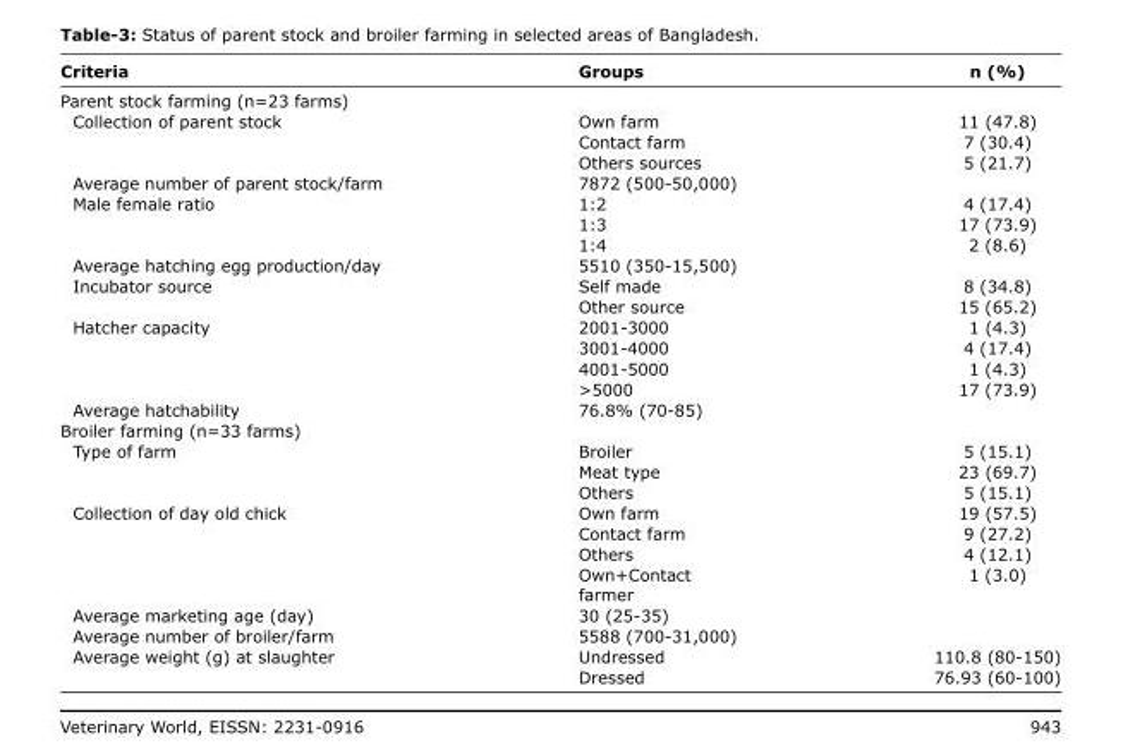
<table><thead><tr><td>Criteria</td><td>Groups</td><td>n (%)</td></tr></thead><tbody><tr><td colspan="3">Parent stock farming (n=23 farms)</td></tr><tr><td rowspan="3">Collection of parent stock</td><td>Own farm</td><td>11 (47.8)</td></tr><tr><td>Contact farm</td><td>7 (30.4)</td></tr><tr><td>Others sources</td><td>5 (21.7)</td></tr><tr><td>Average number of parent stock/farm</td><td>7872 (500-50,000)</td><td></td></tr><tr><td rowspan="3">Male female ratio</td><td>1:2</td><td>4 (17.4)</td></tr><tr><td>1:3</td><td>17 (73.9)</td></tr><tr><td>1:4</td><td>2 (8.6)</td></tr><tr><td>Average hatching egg production/day</td><td>5510 (350-15,500)</td><td></td></tr><tr><td rowspan="2">Incubator source</td><td>Self made</td><td>8 (34.8)</td></tr><tr><td>Other source</td><td>15 (65.2)</td></tr><tr><td rowspan="4">Hatcher capacity</td><td>2001-3000</td><td>1 (4.3)</td></tr><tr><td>3001-4000</td><td>4 (17.4)</td></tr><tr><td>4001-5000</td><td>1 (4.3)</td></tr><tr><td>&gt;5000</td><td>17 (73.9)</td></tr><tr><td>Average hatchability</td><td>76.8% (70-85)</td><td></td></tr><tr><td colspan="3">Broiler farming (n=33 farms)</td></tr><tr><td rowspan="3">Type of farm</td><td>Broiler</td><td>5 (15.1)</td></tr><tr><td>Meat type</td><td>23 (69.7)</td></tr><tr><td>Others</td><td>5 (15.1)</td></tr><tr><td rowspan="4">Collection of day old chick</td><td>Own farm</td><td>19 (57.5)</td></tr><tr><td>Contact farm</td><td>9 (27.2)</td></tr><tr><td>Others</td><td>4 (12.1)</td></tr><tr><td>Own+Contact farmer</td><td>1 (3.0)</td></tr><tr><td>Average marketing age (day)</td><td>30 (25-35)</td><td></td></tr><tr><td>Average number of broiler/farm</td><td>5588 (700-31,000)</td><td></td></tr><tr><td rowspan="2">Average weight (g) at slaughter</td><td>Undressed</td><td>110.8 (80-150)</td></tr><tr><td>Dressed</td><td>76.93 (60-100)</td></tr></tbody></table>